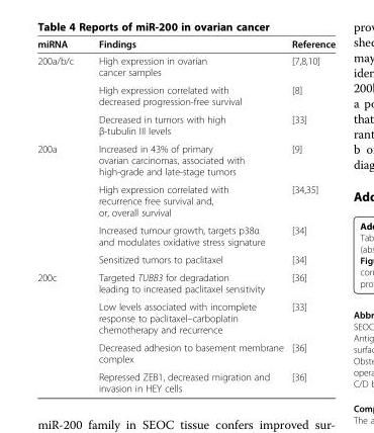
<table><thead><tr><td>miRNA</td><td>Findings</td><td>Reference</td></tr></thead><tbody><tr><td rowspan="3">200a/b/c</td><td>High expression in ovarian cancer samples</td><td>[7,8,10]</td></tr><tr><td>High expression correlated with decreased progression-free survival</td><td>[8]</td></tr><tr><td>Decreased in tumors with high β-tubulin III levels</td><td>[33]</td></tr><tr><td rowspan="4">200a</td><td>Increased in 43% of primary ovarian carcinomas, associated with high-grade and late-stage tumors</td><td>[9]</td></tr><tr><td>High expression correlated with recurrence free survival and, or, overall survival</td><td>[34,35]</td></tr><tr><td>Increased tumour growth, targets p38α and modulates oxidative stress signature</td><td>[34]</td></tr><tr><td>Sensitized tumors to paclitaxel</td><td>[34]</td></tr><tr><td rowspan="4">200c</td><td>Targeted TUBB3 for degradation leading to increased paclitaxel sensitivity</td><td>[36]</td></tr><tr><td>Low levels associated with incomplete response to paclitaxel–carboplatin chemotherapy and recurrence</td><td>[33]</td></tr><tr><td>Decreased adhesion to basement membrane complex</td><td>[36]</td></tr><tr><td>Repressed ZEB1, decreased migration and invasion in HEY cells</td><td>[36]</td></tr></tbody></table>